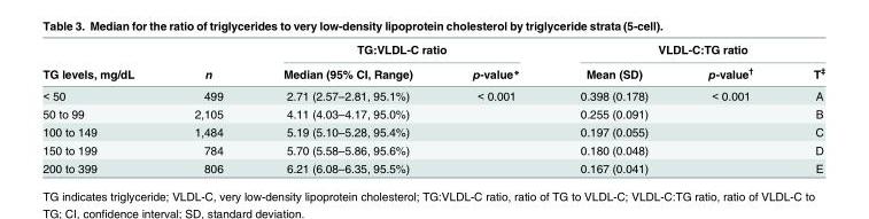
<table><thead><tr><td rowspan="2">TG levels, mg/dL</td><td rowspan="2">n</td><td colspan="2">TG:VLDL-C ratio</td><td colspan="3">VLDL-C:TG ratio</td></tr><tr><td>Median (95% CI, Range)</td><td>p-value*</td><td>Mean (SD)</td><td>p-value<sup>†</sup></td><td>T<sup>‡</sup></td></tr></thead><tbody><tr><td>&lt; 50</td><td>499</td><td>2.71 (2.57–2.81, 95.1%)</td><td>&lt; 0.001</td><td>0.398 (0.178)</td><td>&lt; 0.001</td><td>A</td></tr><tr><td>50 to 99</td><td>2,105</td><td>4.11 (4.03–4.17, 95.0%)</td><td></td><td>0.255 (0.091)</td><td></td><td>B</td></tr><tr><td>100 to 149</td><td>1,484</td><td>5.19 (5.10–5.28, 95.4%)</td><td></td><td>0.197 (0.055)</td><td></td><td>C</td></tr><tr><td>150 to 199</td><td>784</td><td>5.70 (5.58–5.86, 95.6%)</td><td></td><td>0.180 (0.048)</td><td></td><td>D</td></tr><tr><td>200 to 399</td><td>806</td><td>6.21 (6.08–6.35, 95.5%)</td><td></td><td>0.167 (0.041)</td><td></td><td>E</td></tr></tbody></table>